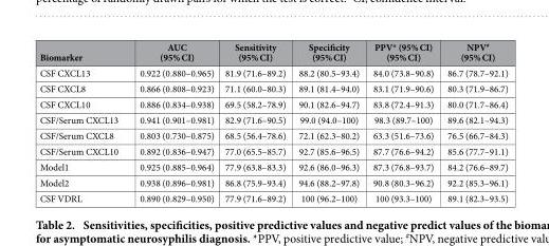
<table><thead><tr><td>Biomarker</td><td>AUC (95% CI)</td><td>Sensitivity (95% CI)</td><td>Specificity (95% CI)</td><td>PPV* (95% CI) (95% CI)</td><td>NPV<sup>#</sup> (95% CI)</td></tr></thead><tbody><tr><td>CSF CXCL13</td><td>0.922 (0.880–0.965)</td><td>81.9 (71.6–89.2)</td><td>88.2 (80.5–93.4)</td><td>84.0 (73.8–90.8)</td><td>86.7 (78.7–92.1)</td></tr><tr><td>CSF CXCL8</td><td>0.866 (0.808–0.923)</td><td>71.1 (60.0–80.3)</td><td>89.1 (81.4–94.0)</td><td>83.1 (71.9–90.6)</td><td>80.3 (71.9–86.7)</td></tr><tr><td>CSF CXCL10</td><td>0.886 (0.834–0.938)</td><td>69.5 (58.2–78.9)</td><td>90.1 (82.6–94.7)</td><td>83.8 (72.4–91.3)</td><td>80.0 (71.7–86.4)</td></tr><tr><td>CSF/Serum CXCL13</td><td>0.941 (0.901–0.981)</td><td>82.9 (71.6–90.5)</td><td>99.0 (94.0–100)</td><td>98.3 (89.7–100)</td><td>89.6 (82.1–94.3)</td></tr><tr><td>CSF/Serum CXCL8</td><td>0.803 (0.730–0.875)</td><td>68.5 (56.4–78.6)</td><td>72.1 (62.3–80.2)</td><td>63.3 (51.6–73.6)</td><td>76.5 (66.7–84.3)</td></tr><tr><td>CSF/Serum CXCL10</td><td>0.892 (0.836–0.947)</td><td>77.0 (65.5–85.7)</td><td>92.7 (85.6–96.5)</td><td>87.7 (76.6–94.2)</td><td>85.6 (77.7–91.1)</td></tr><tr><td>Model1</td><td>0.925 (0.885–0.964)</td><td>77.9 (63.8–83.3)</td><td>92.6 (86.0–96.3)</td><td>87.3 (76.8–93.7)</td><td>84.2 (76.6–89.7)</td></tr><tr><td>Model2</td><td>0.938 (0.896–0.981)</td><td>86.8 (75.9–93.4)</td><td>94.6 (88.2–97.8)</td><td>90.8 (80.3–96.2)</td><td>92.2 (85.3–96.1)</td></tr><tr><td>CSF VDRL</td><td>0.890 (0.829–0.950)</td><td>77.9 (71.6–89.2)</td><td>100 (96.2–100)</td><td>100 (93.3–100)</td><td>89.1 (82.3–93.5)</td></tr></tbody></table>